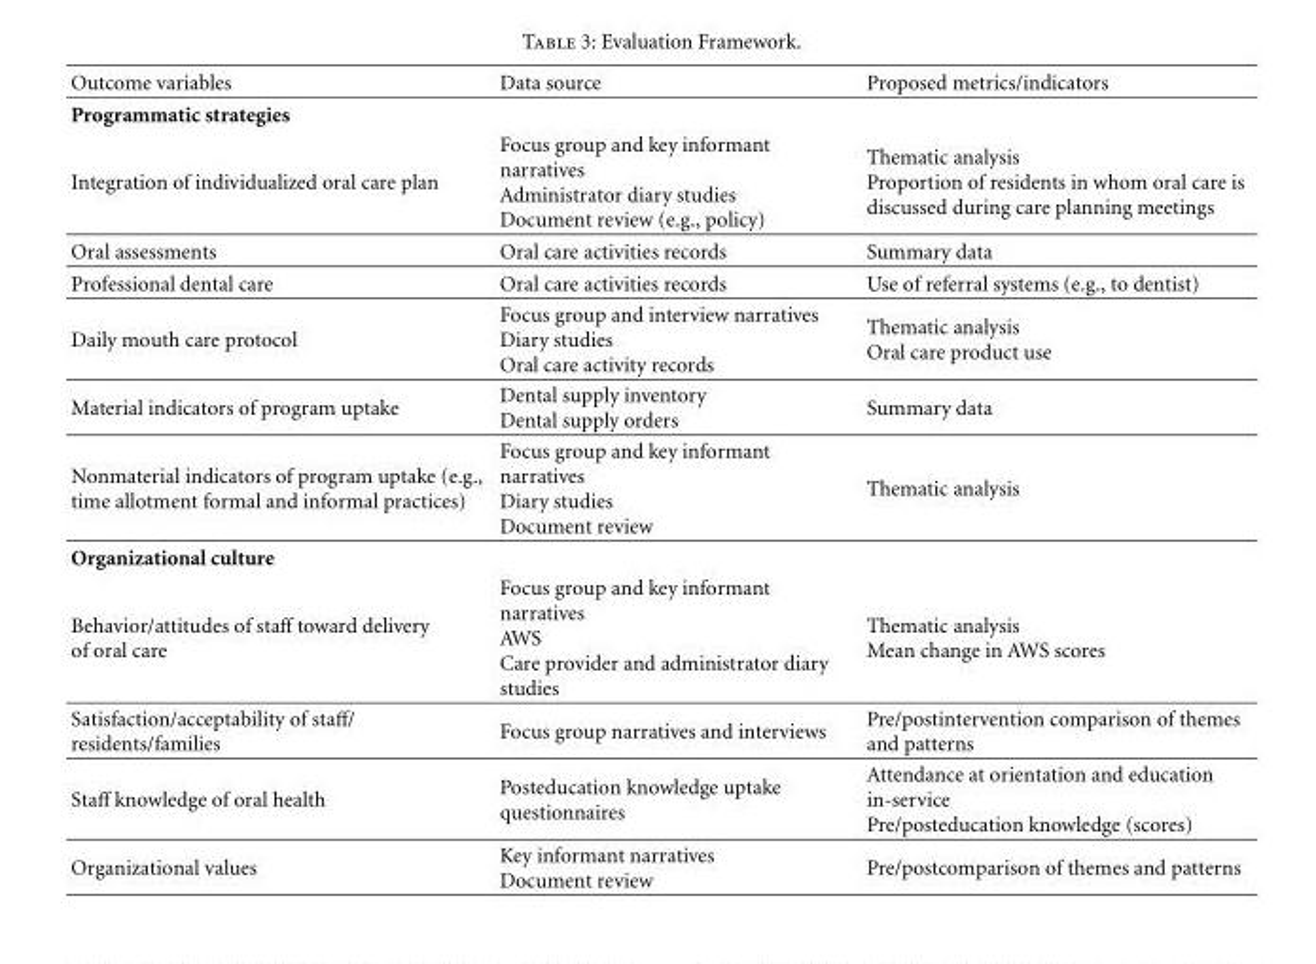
<table><thead><tr><td>Outcome variables</td><td>Data source</td><td>Proposed metrics/indicators</td></tr></thead><tbody><tr><td colspan="3">Programmatic strategies</td></tr><tr><td>Integration of individualized oral care plan</td><td>Focus group and key informant narratives Administrator diary studies Document review (e.g., policy)</td><td>Thematic analysis Proportion of residents in whom oral care is discussed during care planning meetings</td></tr><tr><td>Oral assessments</td><td>Oral care activities records</td><td>Summary data</td></tr><tr><td>Professional dental care</td><td>Oral care activities records</td><td>Use of referral systems (e.g., to dentist)</td></tr><tr><td>Daily mouth care protocol</td><td>Focus group and interview narratives Diary studies Oral care activity records</td><td>Thematic analysis Oral care product use</td></tr><tr><td>Material indicators of program uptake</td><td>Dental supply inventory Dental supply orders</td><td>Summary data</td></tr><tr><td>Nonmaterial indicators of program uptake (e.g., time allotment formal and informal practices)</td><td>Focus group and key informant narratives Diary studies Document review</td><td>Thematic analysis</td></tr><tr><td colspan="3">Organizational culture</td></tr><tr><td>Behavior/attitudes of staff toward delivery of oral care</td><td>Focus group and key informant narratives AWS Care provider and administrator diary studies</td><td>Thematic analysis Mean change in AWS scores</td></tr><tr><td>Satisfaction/acceptability of staff/ residents/families</td><td>Focus group narratives and interviews</td><td>Pre/postintervention comparison of themes and patterns</td></tr><tr><td>Staff knowledge of oral health</td><td>Posteducation knowledge uptake questionnaires</td><td>Attendance at orientation and education in-service Pre/posteducation knowledge (scores)</td></tr><tr><td>Organizational values</td><td>Key informant narratives Document review</td><td>Pre/postcomparison of themes and patterns</td></tr></tbody></table>